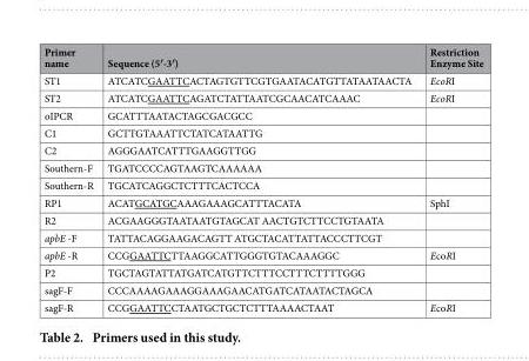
<table><thead><tr><td>Primer name</td><td>Sequence (5′-3′)</td><td>Restriction Enzyme Site</td></tr></thead><tbody><tr><td>ST1</td><td>ATCATCGAATTCACTAGTGTTCGTGAATACATGTTATAATAACTA</td><td>EcoRI</td></tr><tr><td>ST2</td><td>ATCATCGAATTCAGATCTATTAATCGCAACATCAAAC</td><td>EcoRI</td></tr><tr><td>oIPCR</td><td>GCATTTAATACTAGCGACGCC</td><td></td></tr><tr><td>C1</td><td>GCTTGTAAATTCTATCATAATTG</td><td></td></tr><tr><td>C2</td><td>AGGGAATCATTTGAAGGTTGG</td><td></td></tr><tr><td>Southern-F</td><td>TGATCCCCAGTAAGTCAAAAAA</td><td></td></tr><tr><td>Southern-R</td><td>TGCATCAGGCTCTTTCACTCCA</td><td></td></tr><tr><td>RP1</td><td>ACATGCATGCAAAGAAAGCATTTACATA</td><td>SphI</td></tr><tr><td>R2</td><td>ACGAAGGGTAATAATGTAGCAT AACTGTCTTCCTGTAATA</td><td></td></tr><tr><td>apbE -F</td><td>TATTACAGGAAGACAGTT ATGCTACATTATTACCCTTCGT</td><td></td></tr><tr><td>apbE -R</td><td>CCGGAATTCTTAAGGCATTGGGTGTACAAAGGC</td><td>EcoRI</td></tr><tr><td>P2</td><td>TGCTAGTATTATGATCATGTTCTTTCCTTTCTTTTGGG</td><td></td></tr><tr><td>sagF-F</td><td>CCCAAAAGAAAGGAAAGAACATGATCATAATACTAGCA</td><td></td></tr><tr><td>sagF-R</td><td>CCGGAATTCCTAATGCTGCTCTTTAAAACTAAT</td><td>EcoRI</td></tr></tbody></table>